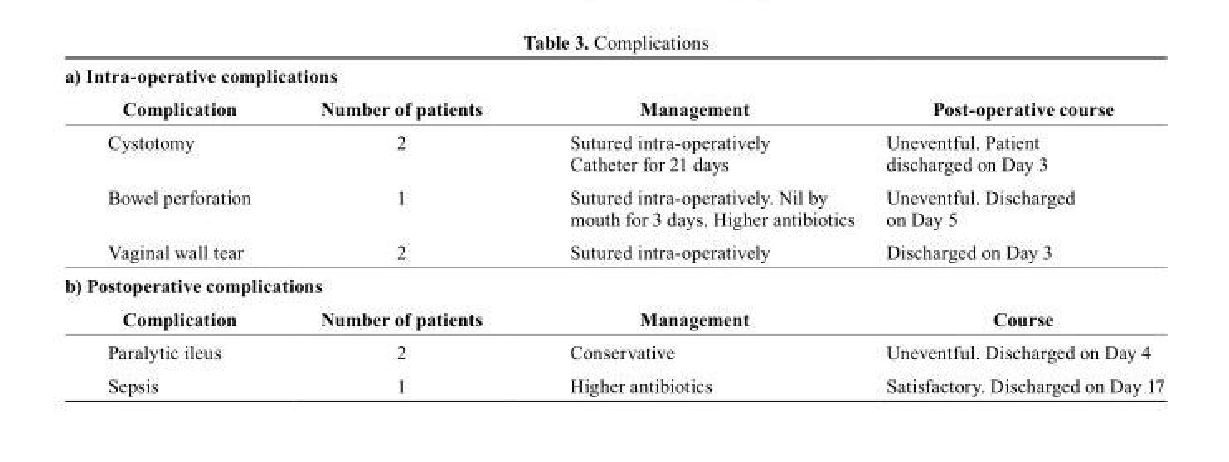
<table><thead><tr><td colspan="4">a) Intra-operative complications</td></tr><tr><td>complication</td><td>Number of patients</td><td>Management</td><td>Post-operative course</td></tr></thead><tbody><tr><td>Cystotomy</td><td>2</td><td>Sutured intra-operatively Catheter for 21 days</td><td>Uneventful. Patient discharged on Day 3</td></tr><tr><td>Bowel perforation</td><td>1</td><td>Sutured intra-operatively. Nil by mouth for 3 days. Higher antibiotics</td><td>Uneventful. Discharged on Day 5</td></tr><tr><td>Vaginal wall tear</td><td>2</td><td>Sutured intra-operatively</td><td>Discharged on Day 3</td></tr><tr><td colspan="4">b) Postoperative complications</td></tr><tr><td>complication</td><td>Number of patients</td><td>Management</td><td>course</td></tr><tr><td>Paralytic ileus</td><td>2</td><td>Conservative</td><td>Uneventful. Discharged on Day 4</td></tr><tr><td>Sepsis</td><td>1</td><td>Higher antibiotics</td><td>Satisfactory. Discharged on Day 17</td></tr></tbody></table>